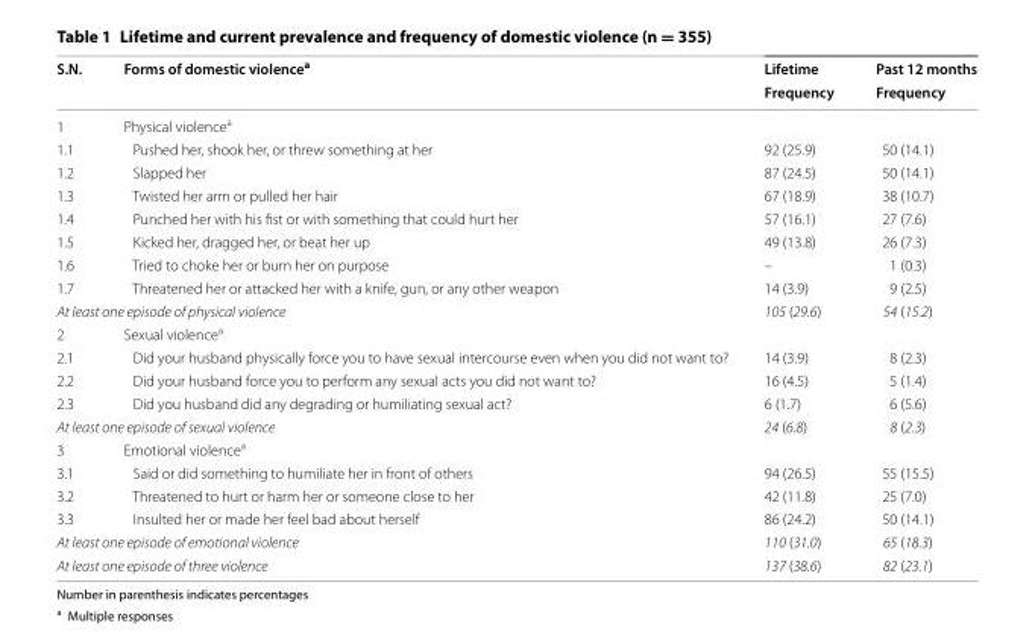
<table><thead><tr><td rowspan="2">S.N.</td><td rowspan="2">Forms of domestic violence<sup>a</sup></td><td rowspan="2">Lifetime Frequency</td><td rowspan="2">Past 12 months Frequency</td></tr><tr></tr></thead><tbody><tr><td>1</td><td colspan="3">Physical violence<sup>a</sup></td></tr><tr><td>1.1</td><td>Pushed her, shook her, or threw something at her</td><td>92 (25.9)</td><td>50 (14.1)</td></tr><tr><td>1.2</td><td>Slapped her</td><td>87 (24.5)</td><td>50 (14.1)</td></tr><tr><td>1.3</td><td>Twisted her arm or pulled her hair</td><td>67 (18.9)</td><td>38 (10.7)</td></tr><tr><td>1.4</td><td>Punched her with his fist or with something that could hurt her</td><td>57 (16.1)</td><td>27 (7.6)</td></tr><tr><td>1.5</td><td>Kicked her, dragged her, or beat her up</td><td>49 (13.8)</td><td>26 (7.3)</td></tr><tr><td>1.6</td><td>Tried to choke her or burn her on purpose</td><td>–</td><td>1 (0.3)</td></tr><tr><td>1.7</td><td>Threatened her or attacked her with a knife, gun, or any other weapon</td><td>14 (3.9)</td><td>9 (2.5)</td></tr><tr><td colspan="2">At least one episode of physical violence</td><td>105 (29.6)</td><td>54 (15.2)</td></tr><tr><td>2</td><td colspan="3">Sexual violence<sup>a</sup></td></tr><tr><td>2.1</td><td>Did your husband physically force you to have sexual intercourse even when you did not want to?</td><td>14 (3.9)</td><td>8 (2.3)</td></tr><tr><td>2.2</td><td>Did your husband force you to perform any sexual acts you did not want to?</td><td>16 (4.5)</td><td>5 (1.4)</td></tr><tr><td>2.3</td><td>Did you husband did any degrading or humiliating sexual act?</td><td>6 (1.7)</td><td>6 (5.6)</td></tr><tr><td colspan="2">At least one episode of sexual violence</td><td>24 (6.8)</td><td>8 (2.3)</td></tr><tr><td>3</td><td colspan="3">Emotional violence<sup>a</sup></td></tr><tr><td>3.1</td><td>Said or did something to humiliate her in front of others</td><td>94 (26.5)</td><td>55 (15.5)</td></tr><tr><td>3.2</td><td>Threatened to hurt or harm her or someone close to her</td><td>42 (11.8)</td><td>25 (7.0)</td></tr><tr><td>3.3</td><td>Insulted her or made her feel bad about herself</td><td>86 (24.2)</td><td>50 (14.1)</td></tr><tr><td colspan="2">At least one episode of emotional violence</td><td>110 (31.0)</td><td>65 (18.3)</td></tr><tr><td colspan="2">At least one episode of three violence</td><td>137 (38.6)</td><td>82 (23.1)</td></tr></tbody></table>